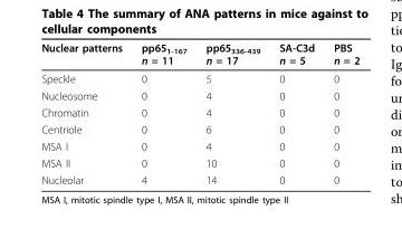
<table><thead><tr><td>Nuclear patterns</td><td>pp65<sub>1-167</sub> n = 11</td><td>pp65<sub>336-439</sub> n = 17</td><td>SA-C3d n = 5</td><td>PBS n = 2</td></tr></thead><tbody><tr><td>Speckle</td><td>0</td><td>5</td><td>0</td><td>0</td></tr><tr><td>Nucleosome</td><td>0</td><td>4</td><td>0</td><td>0</td></tr><tr><td>Chromatin</td><td>0</td><td>4</td><td>0</td><td>0</td></tr><tr><td>Centriole</td><td>0</td><td>6</td><td>0</td><td>0</td></tr><tr><td>MSA I</td><td>0</td><td>4</td><td>0</td><td>0</td></tr><tr><td>MSA II</td><td>0</td><td>10</td><td>0</td><td>0</td></tr><tr><td>Nucleolar</td><td>4</td><td>14</td><td>0</td><td>0</td></tr></tbody></table>